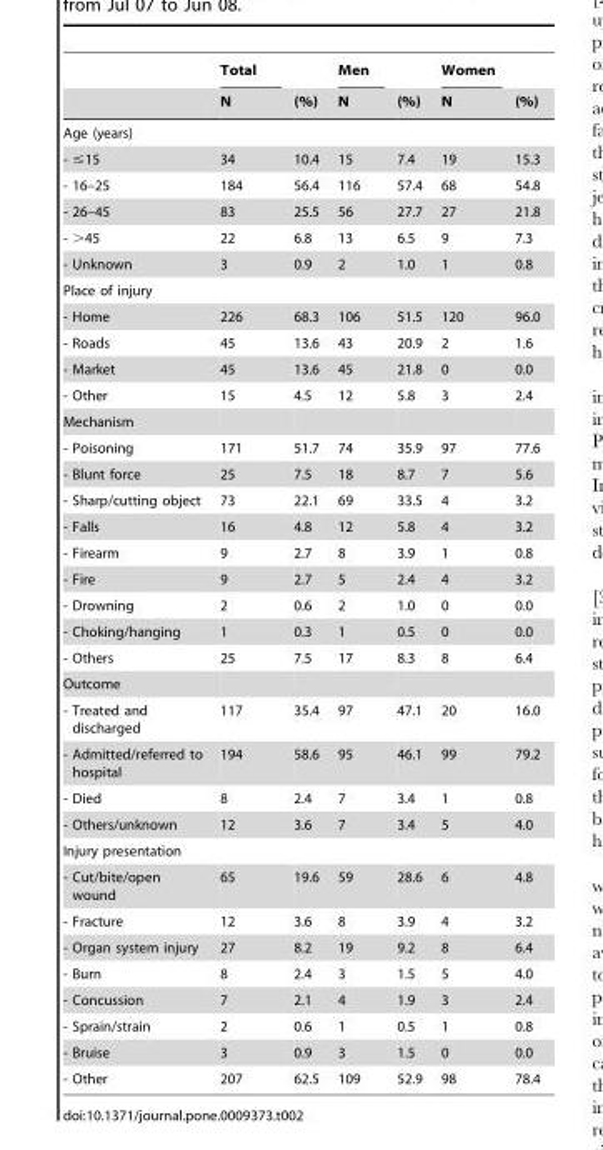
<table><thead><tr><td rowspan="2"></td><td rowspan="2">Total N</td><td rowspan="2">(%)</td><td rowspan="2">Men N</td><td rowspan="2">(%)</td><td rowspan="2">Women N</td><td rowspan="2">(%)</td></tr><tr></tr></thead><tbody><tr><td colspan="7">Age (years)</td></tr><tr><td>- ≤15</td><td>34</td><td>10.4</td><td>15</td><td>7.4</td><td>19</td><td>15.3</td></tr><tr><td>- 16–25</td><td>184</td><td>56.4</td><td>116</td><td>57.4</td><td>68</td><td>54.8</td></tr><tr><td>- 26–45</td><td>83</td><td>25.5</td><td>56</td><td>27.7</td><td>27</td><td>21.8</td></tr><tr><td>- &gt;45</td><td>22</td><td>6.8</td><td>13</td><td>6.5</td><td>9</td><td>7.3</td></tr><tr><td>- Unknown</td><td>3</td><td>0.9</td><td>2</td><td>1.0</td><td>1</td><td>0.8</td></tr><tr><td colspan="7">Place of injury</td></tr><tr><td>- Home</td><td>226</td><td>68.3</td><td>106</td><td>51.5</td><td>120</td><td>96.0</td></tr><tr><td>- Roads</td><td>45</td><td>13.6</td><td>43</td><td>20.9</td><td>2</td><td>1.6</td></tr><tr><td>- Market</td><td>45</td><td>13.6</td><td>45</td><td>21.8</td><td>0</td><td>0.0</td></tr><tr><td>- Other</td><td>15</td><td>4.5</td><td>12</td><td>5.8</td><td>3</td><td>2.4</td></tr><tr><td colspan="7">Mechanism</td></tr><tr><td>- Poisoning</td><td>171</td><td>51.7</td><td>74</td><td>35.9</td><td>97</td><td>77.6</td></tr><tr><td>- Blunt force</td><td>25</td><td>7.5</td><td>18</td><td>8.7</td><td>7</td><td>5.6</td></tr><tr><td>- Sharp/cutting object</td><td>73</td><td>22.1</td><td>69</td><td>33.5</td><td>4</td><td>3.2</td></tr><tr><td>- Falls</td><td>16</td><td>4.8</td><td>12</td><td>5.8</td><td>4</td><td>3.2</td></tr><tr><td>- Firearm</td><td>9</td><td>2.7</td><td>8</td><td>3.9</td><td>1</td><td>0.8</td></tr><tr><td>- Fire</td><td>9</td><td>2.7</td><td>5</td><td>2.4</td><td>4</td><td>3.2</td></tr><tr><td>- Drowning</td><td>2</td><td>0.6</td><td>2</td><td>1.0</td><td>0</td><td>0.0</td></tr><tr><td>- Choking/hanging</td><td>1</td><td>0.3</td><td>1</td><td>0.5</td><td>0</td><td>0.0</td></tr><tr><td>- Others</td><td>25</td><td>7.5</td><td>17</td><td>8.3</td><td>8</td><td>6.4</td></tr><tr><td colspan="7">Outcome</td></tr><tr><td>- Treated and discharged</td><td>117</td><td>35.4</td><td>97</td><td>47.1</td><td>20</td><td>16.0</td></tr><tr><td>- Admitted/referred to hospital</td><td>194</td><td>58.6</td><td>95</td><td>46.1</td><td>99</td><td>79.2</td></tr><tr><td>- Died</td><td>8</td><td>2.4</td><td>7</td><td>3.4</td><td>1</td><td>0.8</td></tr><tr><td>- Others/unknown</td><td>12</td><td>3.6</td><td>7</td><td>3.4</td><td>5</td><td>4.0</td></tr><tr><td colspan="7">Injury presentation</td></tr><tr><td>- Cut/bite/open wound</td><td>65</td><td>19.6</td><td>59</td><td>28.6</td><td>6</td><td>4.8</td></tr><tr><td>- Fracture</td><td>12</td><td>3.6</td><td>8</td><td>3.9</td><td>4</td><td>3.2</td></tr><tr><td>- Organ system injury</td><td>27</td><td>8.2</td><td>19</td><td>9.2</td><td>8</td><td>6.4</td></tr><tr><td>- Burn</td><td>8</td><td>2.4</td><td>3</td><td>1.5</td><td>5</td><td>4.0</td></tr><tr><td>- Concussion</td><td>7</td><td>2.1</td><td>4</td><td>1.9</td><td>3</td><td>2.4</td></tr><tr><td>- Sprain/strain</td><td>2</td><td>0.6</td><td>1</td><td>0.5</td><td>1</td><td>0.8</td></tr><tr><td>- Bruise</td><td>3</td><td>0.9</td><td>3</td><td>1.5</td><td>0</td><td>0.0</td></tr><tr><td>- Other</td><td>207</td><td>62.5</td><td>109</td><td>52.9</td><td>98</td><td>78.4</td></tr></tbody></table>